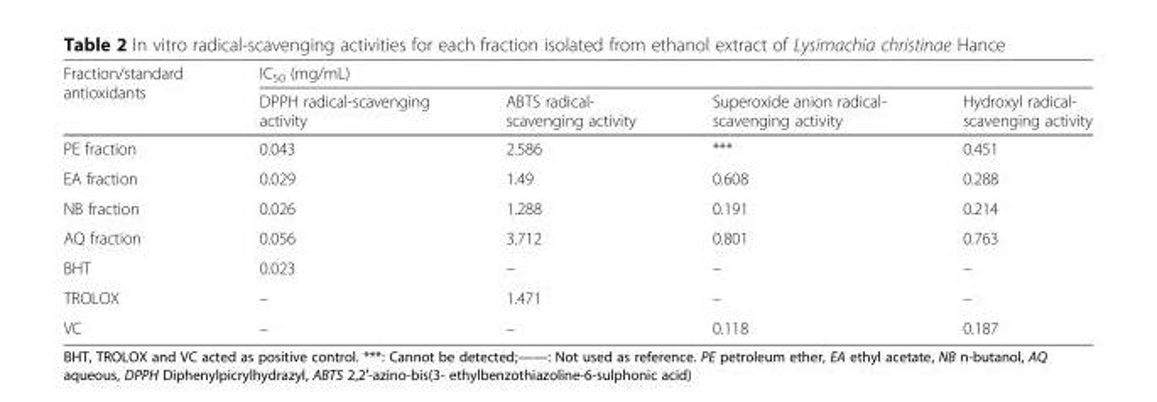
<table><thead><tr><td rowspan="2">Fraction/standard antioxidants</td><td colspan="4">IC<sub>50</sub> (mg/mL)</td></tr><tr><td>DPPH radical-scavenging activity</td><td>ABTS radical- scavenging activity</td><td>Superoxide anion radical- scavenging activity</td><td>Hydroxyl radical- scavenging activity</td></tr></thead><tbody><tr><td>PE fraction</td><td>0.043</td><td>2.586</td><td>***</td><td>0.451</td></tr><tr><td>EA fraction</td><td>0.029</td><td>1.49</td><td>0.608</td><td>0.288</td></tr><tr><td>NB fraction</td><td>0.026</td><td>1.288</td><td>0.191</td><td>0.214</td></tr><tr><td>AQ fraction</td><td>0.056</td><td>3.712</td><td>0.801</td><td>0.763</td></tr><tr><td>BHT</td><td>0.023</td><td>–</td><td>–</td><td>–</td></tr><tr><td>TROLOX</td><td>–</td><td>1.471</td><td>–</td><td>–</td></tr><tr><td>VC</td><td>–</td><td>–</td><td>0.118</td><td>0.187</td></tr></tbody></table>